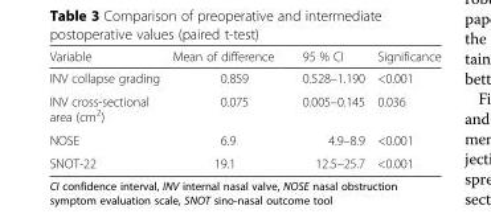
<table><thead><tr><td>Variable</td><td>Mean of difference</td><td>95 % CI</td><td>Significance</td></tr></thead><tbody><tr><td>INV collapse grading</td><td>0.859</td><td>0.528–1.190</td><td>&lt;0.001</td></tr><tr><td>INV cross-sectional area (cm<sup>2</sup>)</td><td>0.075</td><td>0.005–0.145</td><td>0.036</td></tr><tr><td>NOSE</td><td>6.9</td><td>4.9–8.9</td><td>&lt;0.001</td></tr><tr><td>SNOT-22</td><td>19.1</td><td>12.5–25.7</td><td>&lt;0.001</td></tr></tbody></table>